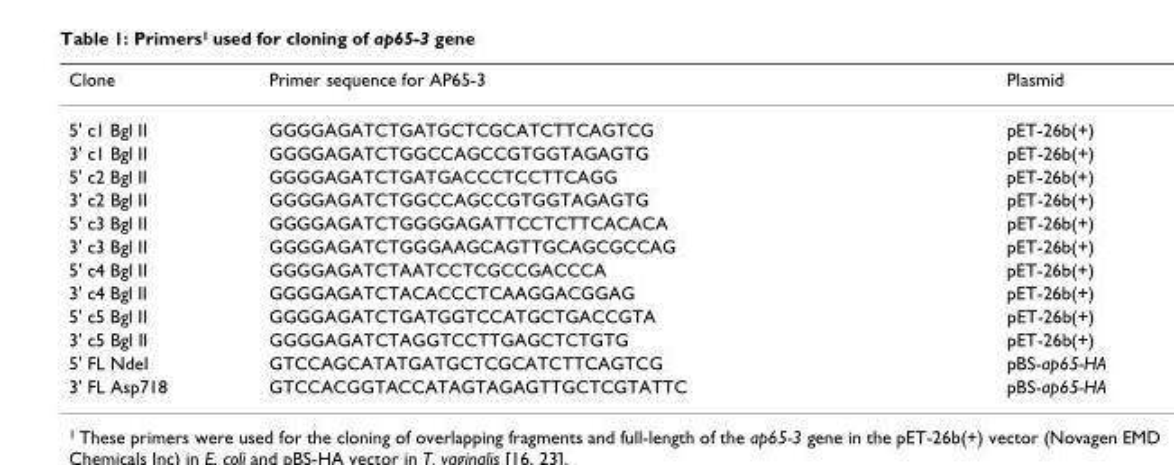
<table><thead><tr><td>Clone</td><td>Primer sequence for AP65-3</td><td>Plasmid</td></tr></thead><tbody><tr><td>5&#x27; c1 Bgl II</td><td>GGGGAGATCTGATGCTCGCATCTTCAGTCG</td><td>pET-26b(+)</td></tr><tr><td>3&#x27; c1 Bgl II</td><td>GGGGAGATCTGGCCAGCCGTGGTAGAGTG</td><td>pET-26b(+)</td></tr><tr><td>5&#x27; c2 Bgl II</td><td>GGGGAGATCTGATGACCCTCCTTCAGG</td><td>pET-26b(+)</td></tr><tr><td>3&#x27; c2 Bgl II</td><td>GGGGAGATCTGGCCAGCCGTGGTAGAGTG</td><td>pET-26b(+)</td></tr><tr><td>5&#x27; c3 Bgl II</td><td>GGGGAGATCTGGGGAGATTCCTCTTCACACA</td><td>pET-26b(+)</td></tr><tr><td>3&#x27; c3 Bgl II</td><td>GGGGAGATCTGGGAAGCAGTTGCAGCGCCAG</td><td>pET-26b(+)</td></tr><tr><td>5&#x27; c4 Bgl II</td><td>GGGGAGATCTAATCCTCGCCGACCCA</td><td>pET-26b(+)</td></tr><tr><td>3&#x27; c4 Bgl II</td><td>GGGGAGATCTACACCCTCAAGGACGGAG</td><td>pET-26b(+)</td></tr><tr><td>5&#x27; c5 Bgl II</td><td>GGGGAGATCTGATGGTCCATGCTGACCGTA</td><td>pET-26b(+)</td></tr><tr><td>3&#x27; c5 Bgl II</td><td>GGGGAGATCTAGGTCCTTGAGCTCTGTG</td><td>pET-26b(+)</td></tr><tr><td>5&#x27; FL NdeI</td><td>GTCCAGCATATGATGCTCGCATCTTCAGTCG</td><td>pBS-ap65-HA</td></tr><tr><td>3&#x27; FL Asp718</td><td>GTCCACGGTACCATAGTAGAGTTGCTCGTATTC</td><td>pBS-ap65-HA</td></tr></tbody></table>